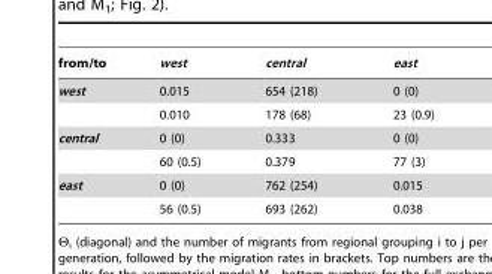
<table><thead><tr><td>from/to</td><td>west</td><td>central</td><td>east</td></tr></thead><tbody><tr><td rowspan="2">west</td><td>0.015</td><td>654 (218)</td><td>0 (0)</td></tr><tr><td>0.010</td><td>178 (68)</td><td>23 (0.9)</td></tr><tr><td rowspan="2">central</td><td>0 (0)</td><td>0.333</td><td>0 (0)</td></tr><tr><td>60 (0.5)</td><td>0.379</td><td>77 (3)</td></tr><tr><td rowspan="2">east</td><td>0 (0)</td><td>762 (254)</td><td>0.015</td></tr><tr><td>56 (0.5)</td><td>693 (262)</td><td>0.038</td></tr></tbody></table>